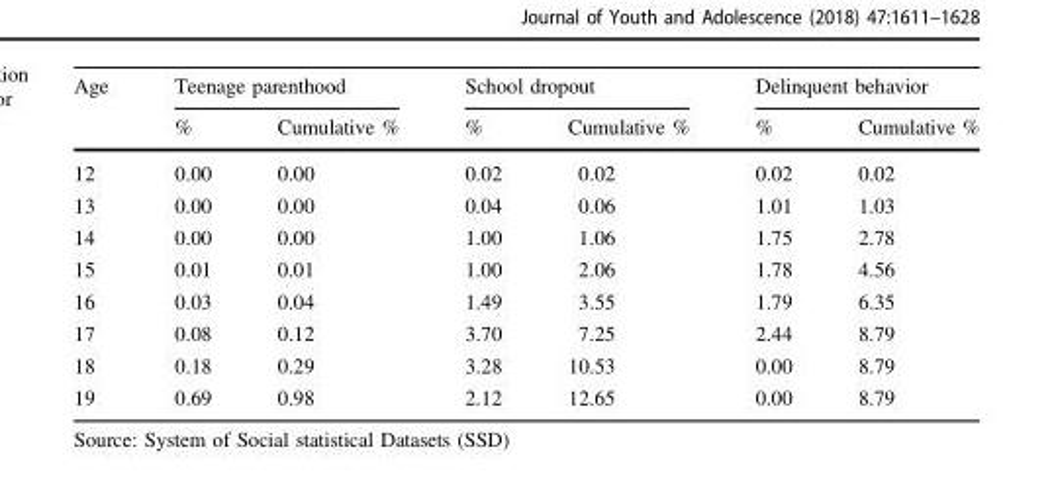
<table><thead><tr><td rowspan="2">Age</td><td colspan="2">Teenage parenthood</td><td colspan="2">School dropout</td><td colspan="2">Delinquent behavior</td></tr><tr><td>%</td><td>Cumulative %</td><td>%</td><td>Cumulative %</td><td>%</td><td>Cumulative %</td></tr></thead><tbody><tr><td>12</td><td>0.00</td><td>0.00</td><td>0.02</td><td>0.02</td><td>0.02</td><td>0.02</td></tr><tr><td>13</td><td>0.00</td><td>0.00</td><td>0.04</td><td>0.06</td><td>1.01</td><td>1.03</td></tr><tr><td>14</td><td>0.00</td><td>0.00</td><td>1.00</td><td>1.06</td><td>1.75</td><td>2.78</td></tr><tr><td>15</td><td>0.01</td><td>0.01</td><td>1.00</td><td>2.06</td><td>1.78</td><td>4.56</td></tr><tr><td>16</td><td>0.03</td><td>0.04</td><td>1.49</td><td>3.55</td><td>1.79</td><td>6.35</td></tr><tr><td>17</td><td>0.08</td><td>0.12</td><td>3.70</td><td>7.25</td><td>2.44</td><td>8.79</td></tr><tr><td>18</td><td>0.18</td><td>0.29</td><td>3.28</td><td>10.53</td><td>0.00</td><td>8.79</td></tr><tr><td>19</td><td>0.69</td><td>0.98</td><td>2.12</td><td>12.65</td><td>0.00</td><td>8.79</td></tr></tbody></table>